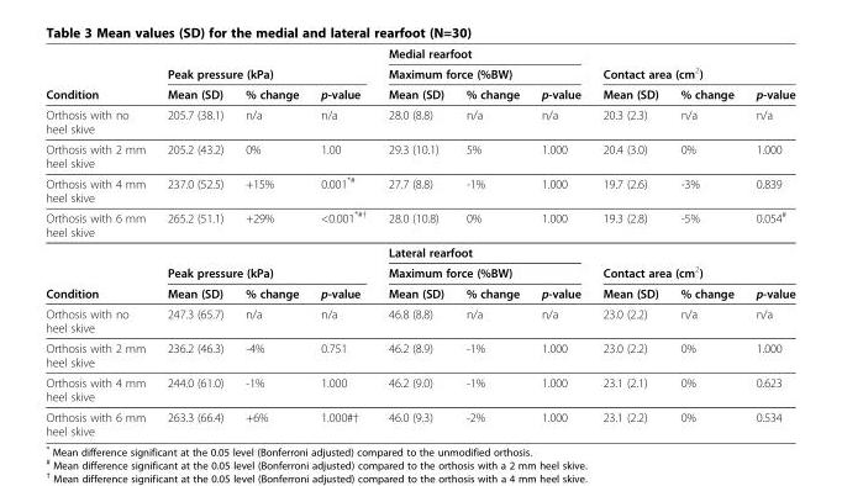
<table><thead><tr><td rowspan="3">Condition</td><td></td><td></td><td></td><td rowspan="2" colspan="3">Medial rearfoot Maximum force (%BW)</td><td></td><td></td><td></td></tr><tr><td colspan="3">Peak pressure (kPa)</td><td colspan="3">Contact area (cm<sup>2</sup>)</td></tr><tr><td>Mean (SD)</td><td>% change</td><td>p-value</td><td>Mean (SD)</td><td>% change</td><td>p-value</td><td>Mean (SD)</td><td>% change</td><td>p-value</td></tr></thead><tbody><tr><td>Orthosis with no heel skive</td><td>205.7 (38.1)</td><td>n/a</td><td>n/a</td><td>28.0 (8.8)</td><td>n/a</td><td>n/a</td><td>20.3 (2.3)</td><td>n/a</td><td>n/a</td></tr><tr><td>Orthosis with 2 mm heel skive</td><td>205.2 (43.2)</td><td>0%</td><td>1.00</td><td>29.3 (10.1)</td><td>5%</td><td>1.000</td><td>20.4 (3.0)</td><td>0%</td><td>1.000</td></tr><tr><td>Orthosis with 4 mm heel skive</td><td>237.0 (52.5)</td><td>+15%</td><td>0.001<sup>*#</sup></td><td>27.7 (8.8)</td><td>-1%</td><td>1.000</td><td>19.7 (2.6)</td><td>-3%</td><td>0.839</td></tr><tr><td rowspan="3">Orthosis with 6 mm heel skive</td><td>265.2 (51.1)</td><td>+29%</td><td>&lt;0.001<sup>*#†</sup></td><td>28.0 (10.8)</td><td>0%</td><td>1.000</td><td>19.3 (2.8)</td><td>-5%</td><td>0.054<sup>#</sup></td></tr><tr><td></td><td></td><td></td><td colspan="3">Lateral rearfoot</td><td></td><td></td><td></td></tr><tr><td colspan="3">Peak pressure (kPa)</td><td colspan="3">Maximum force (%BW)</td><td colspan="3">Contact area (cm<sup>2</sup>)</td></tr><tr><td>Condition</td><td>Mean (SD)</td><td>% change</td><td>p-value</td><td>Mean (SD)</td><td>% change</td><td>p-value</td><td>Mean (SD)</td><td>% change</td><td>p-value</td></tr><tr><td>Orthosis with no heel skive</td><td>247.3 (65.7)</td><td>n/a</td><td>n/a</td><td>46.8 (8.8)</td><td>n/a</td><td>n/a</td><td>23.0 (2.2)</td><td>n/a</td><td>n/a</td></tr><tr><td>Orthosis with 2 mm heel skive</td><td>236.2 (46.3)</td><td>-4%</td><td>0.751</td><td>46.2 (8.9)</td><td>-1%</td><td>1.000</td><td>23.0 (2.2)</td><td>0%</td><td>1.000</td></tr><tr><td>Orthosis with 4 mm heel skive</td><td>244.0 (61.0)</td><td>-1%</td><td>1.000</td><td>46.2 (9.0)</td><td>-1%</td><td>1.000</td><td>23.1 (2.1)</td><td>0%</td><td>0.623</td></tr><tr><td>Orthosis with 6 mm heel skive</td><td>263.3 (66.4)</td><td>+6%</td><td>1.000#†</td><td>46.0 (9.3)</td><td>-2%</td><td>1.000</td><td>23.1 (2.2)</td><td>0%</td><td>0.534</td></tr></tbody></table>